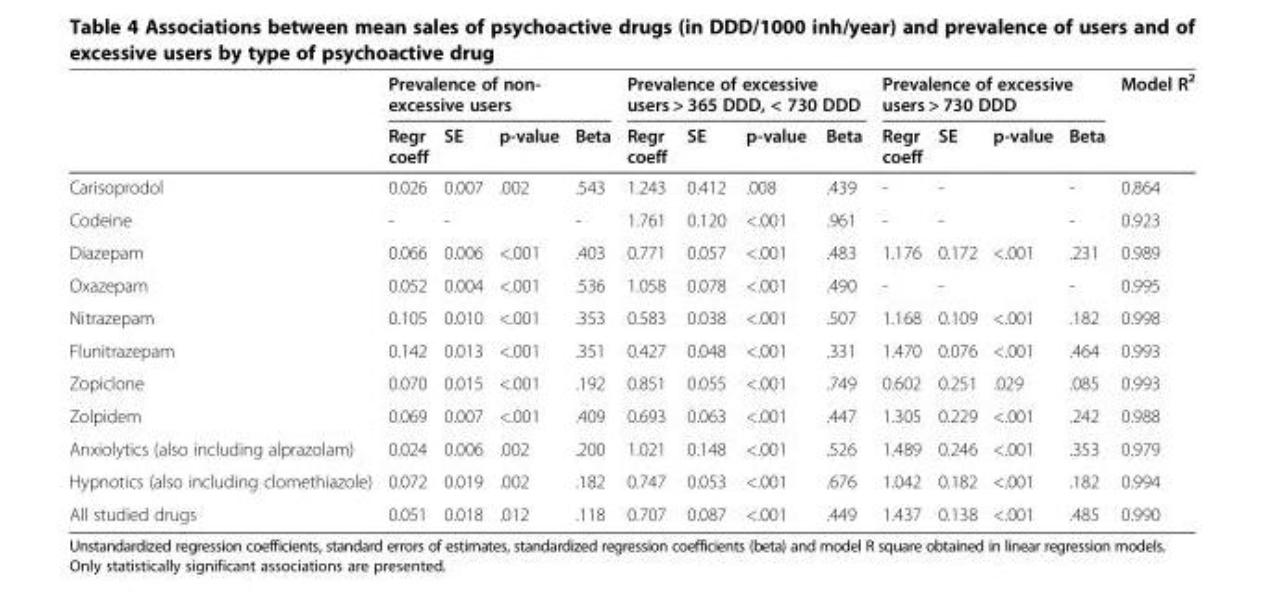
<table><thead><tr><td rowspan="2"></td><td colspan="4">Prevalence of non- excessive users</td><td colspan="4">Prevalence of excessive users &gt; 365 DDD, &lt; 730 DDD</td><td colspan="4">Prevalence of excessive users &gt; 730 DDD</td><td rowspan="2">Model R<sup>2</sup></td></tr><tr><td>Regr coeff</td><td>SE</td><td>p-value</td><td>Beta</td><td>Regr coeff</td><td>SE</td><td>p-value</td><td>Beta</td><td>Regr coeff</td><td>SE</td><td>p-value</td><td>Beta</td></tr></thead><tbody><tr><td>Carisoprodol</td><td>0.026</td><td>0.007</td><td>.002</td><td>.543</td><td>1.243</td><td>0.412</td><td>.008</td><td>.439</td><td>-</td><td>-</td><td></td><td>-</td><td>0.864</td></tr><tr><td>Codeine</td><td>-</td><td>-</td><td></td><td>-</td><td>1.761</td><td>0.120</td><td>&lt;.001</td><td>.961</td><td>-</td><td>-</td><td></td><td>-</td><td>0.923</td></tr><tr><td>Diazepam</td><td>0.066</td><td>0.006</td><td>&lt;.001</td><td>.403</td><td>0.771</td><td>0.057</td><td>&lt;.001</td><td>.483</td><td>1.176</td><td>0.172</td><td>&lt;.001</td><td>.231</td><td>0.989</td></tr><tr><td>Oxazepam</td><td>0.052</td><td>0.004</td><td>&lt;.001</td><td>.536</td><td>1.058</td><td>0.078</td><td>&lt;.001</td><td>.490</td><td>-</td><td>-</td><td></td><td>-</td><td>0.995</td></tr><tr><td>Nitrazepam</td><td>0.105</td><td>0.010</td><td>&lt;.001</td><td>.353</td><td>0.583</td><td>0.038</td><td>&lt;.001</td><td>.507</td><td>1.168</td><td>0.109</td><td>&lt;.001</td><td>.182</td><td>0.998</td></tr><tr><td>Flunitrazepam</td><td>0.142</td><td>0.013</td><td>&lt;.001</td><td>.351</td><td>0.427</td><td>0.048</td><td>&lt;.001</td><td>.331</td><td>1.470</td><td>0.076</td><td>&lt;.001</td><td>.464</td><td>0.993</td></tr><tr><td>Zopiclone</td><td>0.070</td><td>0.015</td><td>&lt;.001</td><td>.192</td><td>0.851</td><td>0.055</td><td>&lt;.001</td><td>.749</td><td>0.602</td><td>0.251</td><td>.029</td><td>.085</td><td>0.993</td></tr><tr><td>Zolpidem</td><td>0.069</td><td>0.007</td><td>&lt;.001</td><td>.409</td><td>0.693</td><td>0.063</td><td>&lt;.001</td><td>.447</td><td>1.305</td><td>0.229</td><td>&lt;.001</td><td>.242</td><td>0.988</td></tr><tr><td>Anxiolytics (also including alprazolam)</td><td>0.024</td><td>0.006</td><td>.002</td><td>.200</td><td>1.021</td><td>0.148</td><td>&lt;.001</td><td>.526</td><td>1.489</td><td>0.246</td><td>&lt;.001</td><td>.353</td><td>0.979</td></tr><tr><td>Hypnotics (also including clomethiazole)</td><td>0.072</td><td>0.019</td><td>.002</td><td>.182</td><td>0.747</td><td>0.053</td><td>&lt;.001</td><td>.676</td><td>1.042</td><td>0.182</td><td>&lt;.001</td><td>.182</td><td>0.994</td></tr><tr><td>All studied drugs</td><td>0.051</td><td>0.018</td><td>.012</td><td>.118</td><td>0.707</td><td>0.087</td><td>&lt;.001</td><td>.449</td><td>1.437</td><td>0.138</td><td>&lt;.001</td><td>.485</td><td>0.990</td></tr></tbody></table>